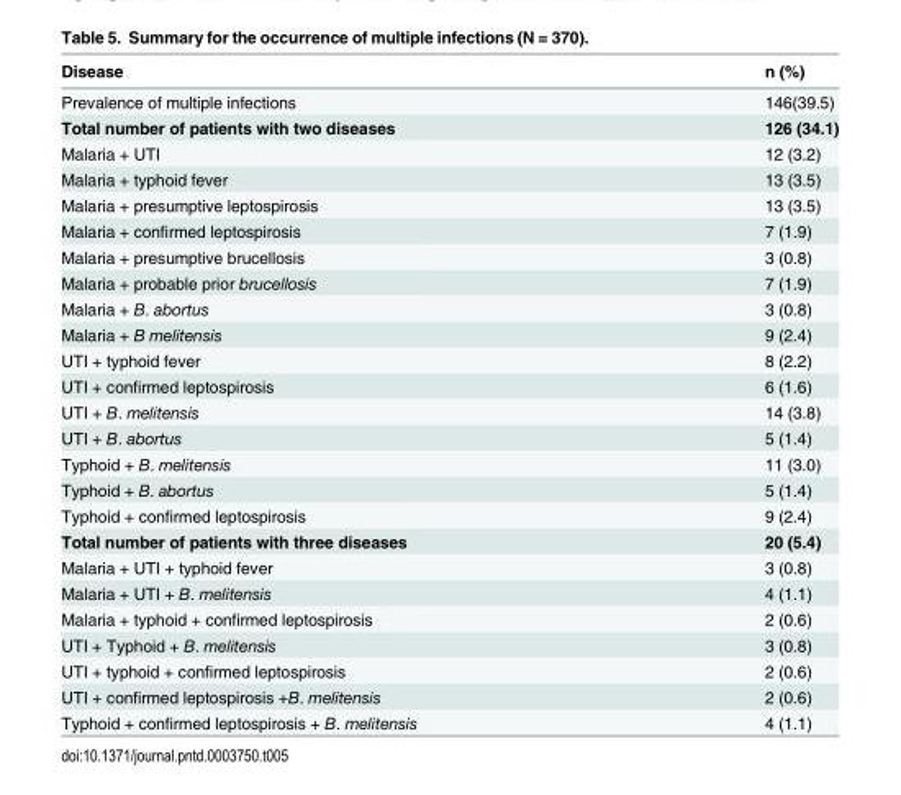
<table><thead><tr><td>Disease</td><td>n (%)</td></tr></thead><tbody><tr><td>Prevalence of multiple infections</td><td>146(39.5)</td></tr><tr><td>Total number of patients with two diseases</td><td>126 (34.1)</td></tr><tr><td>Malaria + UTI</td><td>12 (3.2)</td></tr><tr><td>Malaria + typhoid fever</td><td>13 (3.5)</td></tr><tr><td>Malaria + presumptive leptospirosis</td><td>13 (3.5)</td></tr><tr><td>Malaria + confirmed leptospirosis</td><td>7 (1.9)</td></tr><tr><td>Malaria + presumptive brucellosis</td><td>3 (0.8)</td></tr><tr><td>Malaria + probable prior brucellosis</td><td>7 (1.9)</td></tr><tr><td>Malaria + B. abortus</td><td>3 (0.8)</td></tr><tr><td>Malaria + B melitensis</td><td>9 (2.4)</td></tr><tr><td>UTI + typhoid fever</td><td>8 (2.2)</td></tr><tr><td>UTI + confirmed leptospirosis</td><td>6 (1.6)</td></tr><tr><td>UTI + B. melitensis</td><td>14 (3.8)</td></tr><tr><td>UTI + B. abortus</td><td>5 (1.4)</td></tr><tr><td>Typhoid + B. melitensis</td><td>11 (3.0)</td></tr><tr><td>Typhoid + B. abortus</td><td>5 (1.4)</td></tr><tr><td>Typhoid + confirmed leptospirosis</td><td>9 (2.4)</td></tr><tr><td>Total number of patients with three diseases</td><td>20 (5.4)</td></tr><tr><td>Malaria + UTI + typhoid fever</td><td>3 (0.8)</td></tr><tr><td>Malaria + UTI + B. melitensis</td><td>4 (1.1)</td></tr><tr><td>Malaria + typhoid + confirmed leptospirosis</td><td>2 (0.6)</td></tr><tr><td>UTI + Typhoid + B. melitensis</td><td>3 (0.8)</td></tr><tr><td>UTI + typhoid + confirmed leptospirosis</td><td>2 (0.6)</td></tr><tr><td>UTI + confirmed leptospirosis +B. melitensis</td><td>2 (0.6)</td></tr><tr><td>Typhoid + confirmed leptospirosis + B. melitensis</td><td>4 (1.1)</td></tr></tbody></table>